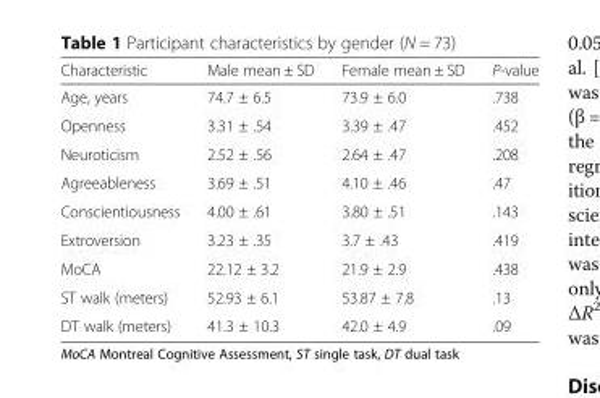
<table><thead><tr><td>Characteristic</td><td>Male mean ± SD</td><td>Female mean ± SD</td><td>P-value</td></tr></thead><tbody><tr><td>Age, years</td><td>74.7 ± 6.5</td><td>73.9 ± 6.0</td><td>.738</td></tr><tr><td>Openness</td><td>3.31 ± .54</td><td>3.39 ± .47</td><td>.452</td></tr><tr><td>Neuroticism</td><td>2.52 ± .56</td><td>2.64 ± .47</td><td>.208</td></tr><tr><td>Agreeableness</td><td>3.69 ± .51</td><td>4.10 ± .46</td><td>.47</td></tr><tr><td>Conscientiousness</td><td>4.00 ± .61</td><td>3.80 ± .51</td><td>.143</td></tr><tr><td>Extroversion</td><td>3.23 ± .35</td><td>3.7 ± .43</td><td>.419</td></tr><tr><td>MoCA</td><td>22.12 ± 3.2</td><td>21.9 ± 2.9</td><td>.438</td></tr><tr><td>ST walk (meters)</td><td>52.93 ± 6.1</td><td>53.87 ± 7.8</td><td>.13</td></tr><tr><td>DT walk (meters)</td><td>41.3 ± 10.3</td><td>42.0 ± 4.9</td><td>.09</td></tr></tbody></table>